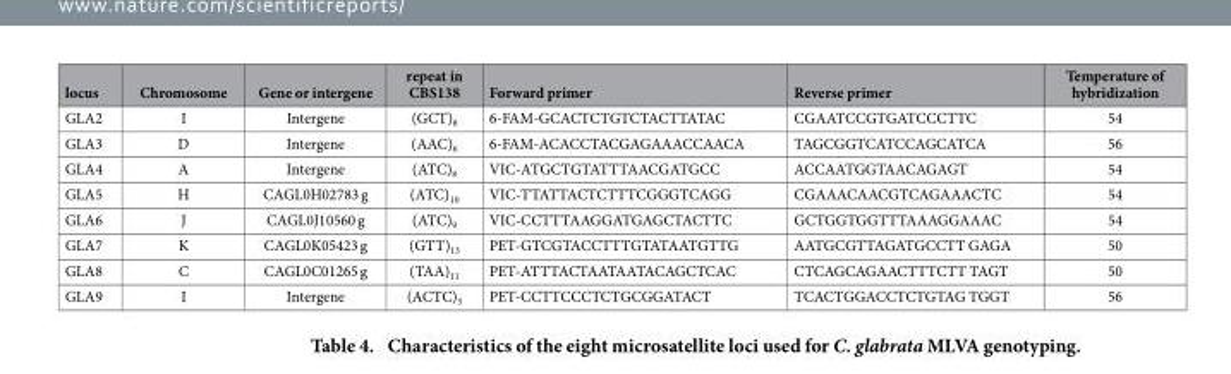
<table><thead><tr><td>locus</td><td>Chromosome</td><td>Gene or intergene</td><td>repeat in CBS138</td><td>Forward primer</td><td>Reverse primer</td><td>Temperature of hybridization</td></tr></thead><tbody><tr><td>GLA2</td><td>I</td><td>Intergene</td><td>(GCT)<sub>8</sub></td><td>6-FAM-GCACTCTGTCTACTTATAC</td><td>CGAATCCGTGATCCCTTC</td><td>54</td></tr><tr><td>GLA3</td><td>D</td><td>Intergene</td><td>(AAC)<sub>6</sub></td><td>6-FAM-ACACCTACGAGAAACCAACA</td><td>TAGCGGTCATCCAGCATCA</td><td>56</td></tr><tr><td>GLA4</td><td>A</td><td>Intergene</td><td>(ATC)<sub>8</sub></td><td>VIC-ATGCTGTATTTAACGATGCC</td><td>ACCAATGGTAACAGAGT</td><td>54</td></tr><tr><td>GLA5</td><td>H</td><td>CAGL0H02783 g</td><td>(ATC)<sub>10</sub></td><td>VIC-TTATTACTCTTTCGGGTCAGG</td><td>CGAAACAACGTCAGAAACTC</td><td>54</td></tr><tr><td>GLA6</td><td>J</td><td>CAGL0J10560 g</td><td>(ATC)<sub>9</sub></td><td>VIC-CCTTTAAGGATGAGCTACTTC</td><td>GCTGGTGGTTTAAAGGAAAC</td><td>54</td></tr><tr><td>GLA7</td><td>K</td><td>CAGL0K05423 g</td><td>(GTT)<sub>13</sub></td><td>PET-GTCGTACCTTTGTATAATGTTG</td><td>AATGCGTTAGATGCCTT GAGA</td><td>50</td></tr><tr><td>GLA8</td><td>C</td><td>CAGL0C01265 g</td><td>(TAA)<sub>11</sub></td><td>PET-ATTTACTAATAATACAGCTCAC</td><td>CTCAGCAGAACTTTCTT TAGT</td><td>50</td></tr><tr><td>GLA9</td><td>I</td><td>Intergene</td><td>(ACTC)<sub>5</sub></td><td>PET-CCTTCCCTCTGCGGATACT</td><td>TCACTGGACCTCTGTAG TGGT</td><td>56</td></tr></tbody></table>